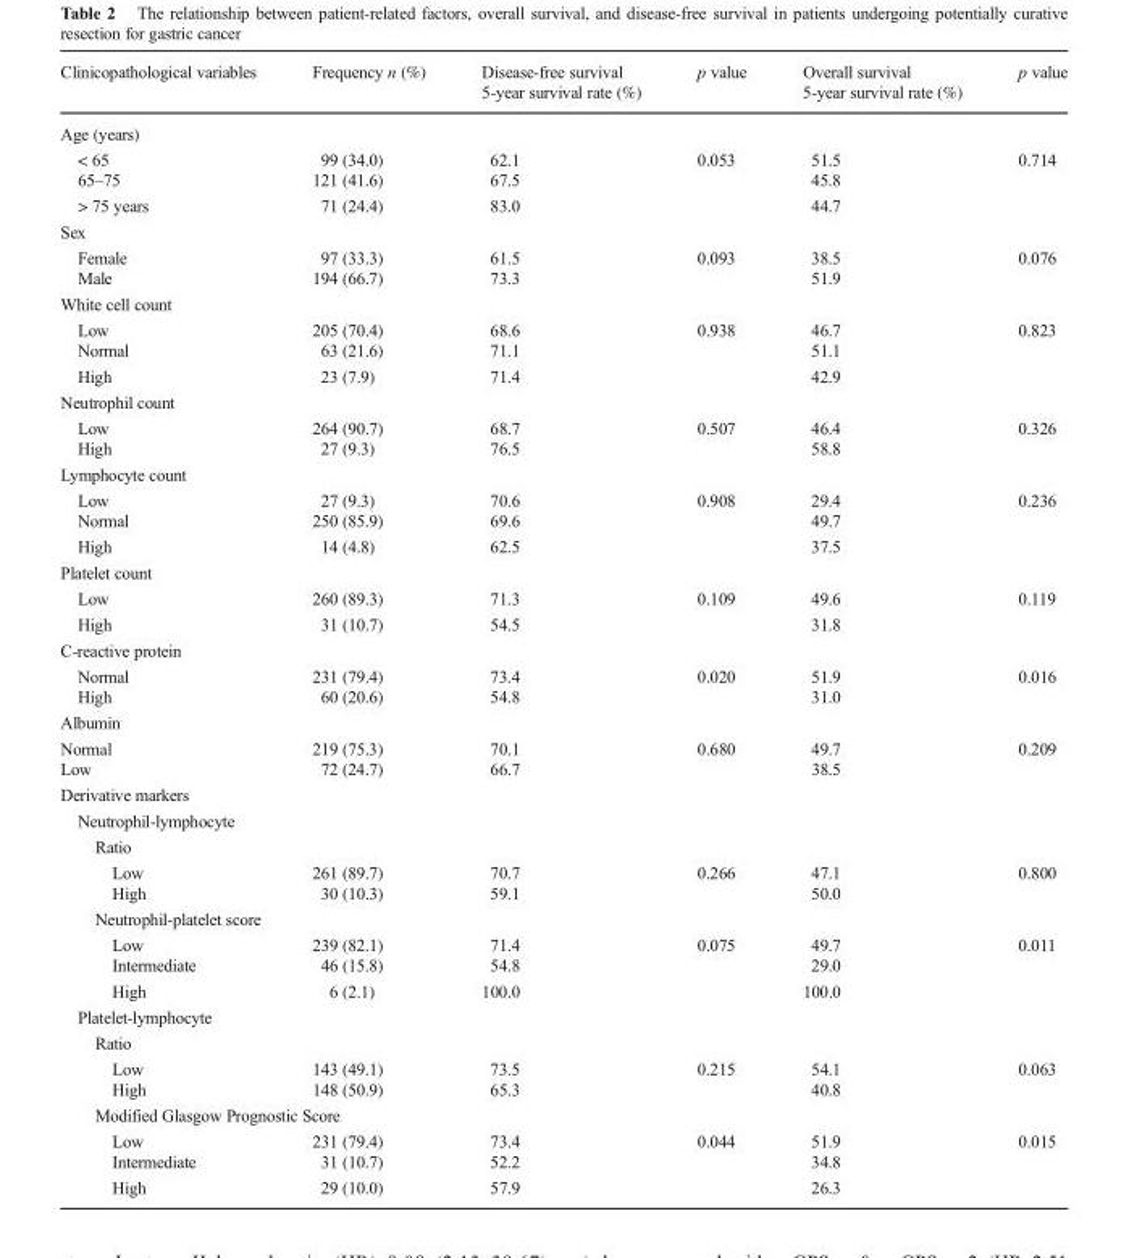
<table><thead><tr><td rowspan="2">Clinicopathological variables</td><td rowspan="2">Frequency n (%)</td><td rowspan="2">Disease-free survival 5-year survival rate (%)</td><td rowspan="2">p value</td><td rowspan="2">Overall survival 5-year survival rate (%)</td><td rowspan="2">p value</td></tr><tr></tr></thead><tbody><tr><td colspan="6">Age (years)</td></tr><tr><td>&lt; 65</td><td>99 (34.0)</td><td>62.1</td><td rowspan="3">0.053</td><td>51.5</td><td rowspan="3">0.714</td></tr><tr><td>65–75</td><td>121 (41.6)</td><td>67.5</td><td>45.8</td></tr><tr><td>&gt; 75 years</td><td>71 (24.4)</td><td>83.0</td><td>44.7</td></tr><tr><td colspan="6">Sex</td></tr><tr><td>Female</td><td>97 (33.3)</td><td>61.5</td><td rowspan="2">0.093</td><td>38.5</td><td rowspan="2">0.076</td></tr><tr><td>Male</td><td>194 (66.7)</td><td>73.3</td><td>51.9</td></tr><tr><td colspan="6">White cell count</td></tr><tr><td>Low</td><td>205 (70.4)</td><td>68.6</td><td rowspan="3">0.938</td><td>46.7</td><td rowspan="3">0.823</td></tr><tr><td>Normal</td><td>63 (21.6)</td><td>71.1</td><td>51.1</td></tr><tr><td>High</td><td>23 (7.9)</td><td>71.4</td><td>42.9</td></tr><tr><td colspan="6">Neutrophil count</td></tr><tr><td>Low</td><td>264 (90.7)</td><td>68.7</td><td rowspan="2">0.507</td><td>46.4</td><td rowspan="2">0.326</td></tr><tr><td>High</td><td>27 (9.3)</td><td>76.5</td><td>58.8</td></tr><tr><td colspan="6">Lymphocyte count</td></tr><tr><td>Low</td><td>27 (9.3)</td><td>70.6</td><td rowspan="3">0.908</td><td>29.4</td><td rowspan="3">0.236</td></tr><tr><td>Normal</td><td>250 (85.9)</td><td>69.6</td><td>49.7</td></tr><tr><td>High</td><td>14 (4.8)</td><td>62.5</td><td>37.5</td></tr><tr><td colspan="6">Platelet count</td></tr><tr><td>Low</td><td>260 (89.3)</td><td>71.3</td><td>0.109</td><td>49.6</td><td>0.119</td></tr><tr><td>High</td><td>31 (10.7)</td><td>54.5</td><td></td><td>31.8</td><td></td></tr><tr><td colspan="6">C-reactive protein</td></tr><tr><td>Normal</td><td>231 (79.4)</td><td>73.4</td><td rowspan="2">0.020</td><td>51.9</td><td rowspan="2">0.016</td></tr><tr><td>High</td><td>60 (20.6)</td><td>54.8</td><td>31.0</td></tr><tr><td colspan="6">Albumin</td></tr><tr><td>Normal</td><td>219 (75.3)</td><td>70.1</td><td rowspan="2">0.680</td><td>49.7</td><td rowspan="2">0.209</td></tr><tr><td>Low</td><td>72 (24.7)</td><td>66.7</td><td>38.5</td></tr><tr><td colspan="6">Derivative markers</td></tr><tr><td colspan="6">Neutrophil-lymphocyte</td></tr><tr><td colspan="6">Ratio</td></tr><tr><td>Low</td><td>261 (89.7)</td><td>70.7</td><td rowspan="2">0.266</td><td>47.1</td><td rowspan="2">0.800</td></tr><tr><td>High</td><td>30 (10.3)</td><td>59.1</td><td>50.0</td></tr><tr><td colspan="6">Neutrophil-platelet score</td></tr><tr><td>Low</td><td>239 (82.1)</td><td>71.4</td><td rowspan="3">0.075</td><td>49.7</td><td rowspan="3">0.011</td></tr><tr><td>Intermediate</td><td>46 (15.8)</td><td>54.8</td><td>29.0</td></tr><tr><td>High</td><td>6 (2.1)</td><td>100.0</td><td>100.0</td></tr><tr><td colspan="6">Platelet-lymphocyte</td></tr><tr><td colspan="6">Ratio</td></tr><tr><td>Low</td><td>143 (49.1)</td><td>73.5</td><td rowspan="2">0.215</td><td>54.1</td><td rowspan="2">0.063</td></tr><tr><td>High</td><td>148 (50.9)</td><td>65.3</td><td>40.8</td></tr><tr><td colspan="6">Modified Glasgow Prognostic Score</td></tr><tr><td>Low</td><td>231 (79.4)</td><td>73.4</td><td rowspan="3">0.044</td><td>51.9</td><td rowspan="3">0.015</td></tr><tr><td>Intermediate</td><td>31 (10.7)</td><td>52.2</td><td>34.8</td></tr><tr><td>High</td><td>29 (10.0)</td><td>57.9</td><td>26.3</td></tr></tbody></table>